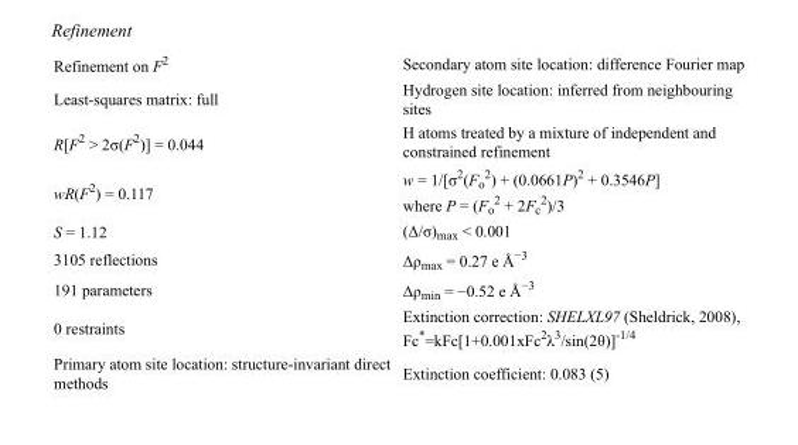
<table><tbody><tr><td>Refinement on F<sup>2</sup></td><td>Secondary atom site location: difference Fourier map</td></tr><tr><td>Least-squares matrix: full</td><td>Hydrogen site location: inferred from neighbouring sites</td></tr><tr><td>R[F<sup>2</sup> &gt; 2σ(F<sup>2</sup>)] = 0.044</td><td>H atoms treated by a mixture of independent and constrained refinement</td></tr><tr><td>wR(F<sup>2</sup>) = 0.117</td><td>w = 1/[σ<sup>2</sup>(F<sub>o</sub> <sup>2</sup>) + (0.0661P)<sup>2</sup> + 0.3546P] where P = (F<sub>o</sub> <sup>2</sup> + 2F<sub>c</sub> <sup>2</sup>)/3</td></tr><tr><td>S = 1.12</td><td>(Δ/σ)<sub>max</sub> &lt; 0.001</td></tr><tr><td>3105 reflections</td><td>Δρ<sub>max</sub> = 0.27 e Å<sup>−3</sup></td></tr><tr><td>191 parameters</td><td>Δρ<sub>min</sub> = −0.52 e Å<sup>−3</sup></td></tr><tr><td>0 restraints</td><td>Extinction correction: SHELXL97 (Sheldrick, 2008), Fc*=kFc[1+0.001xFc<sup>2</sup>λ<sup>3</sup>/sin(2θ)]<sup>-1/4</sup></td></tr><tr><td>Primary atom site location: structure-invariant direct methods</td><td>Extinction coefficient: 0.083 (5)</td></tr></tbody></table>